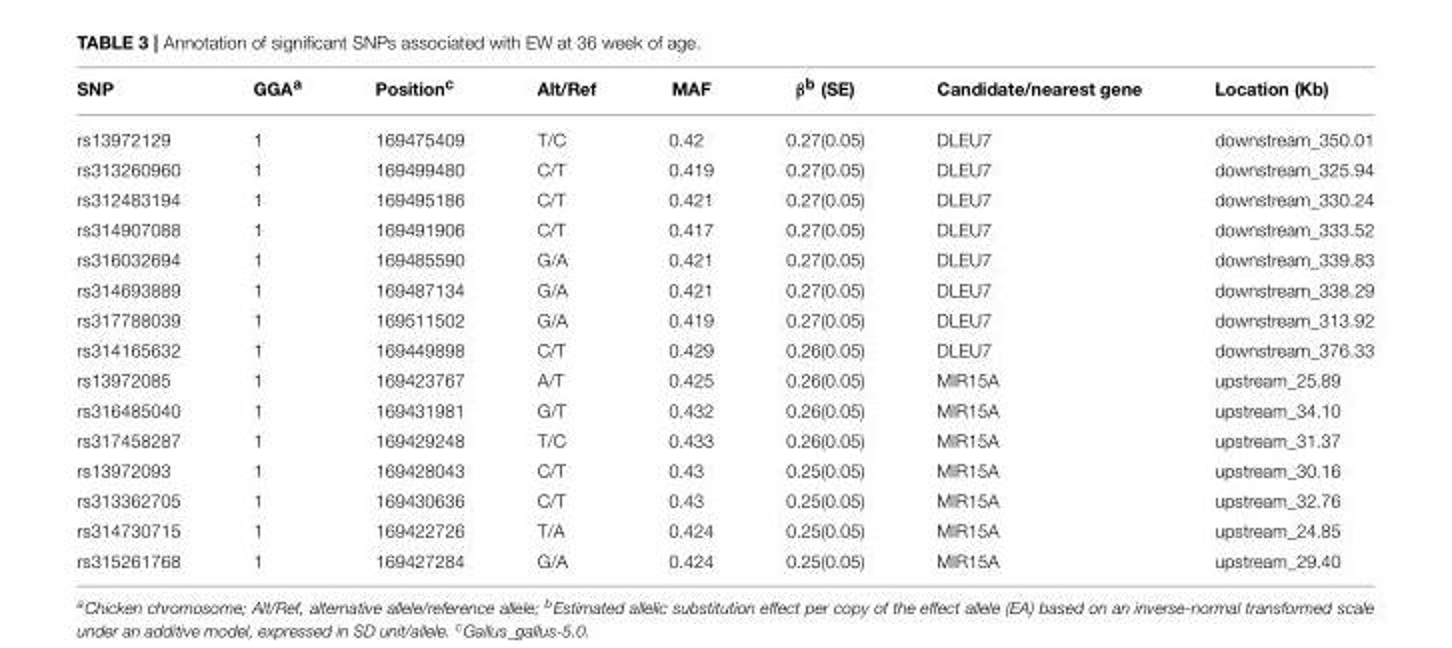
<table><thead><tr><td>SNP</td><td>GGA<sup>a</sup></td><td>Position<sup>c</sup></td><td>Alt/Ref</td><td>MAF</td><td>β<sup>b</sup> (SE)</td><td>Candidate/nearest gene</td><td>Location (Kb)</td></tr></thead><tbody><tr><td>rs13972129</td><td>1</td><td>169475409</td><td>T/C</td><td>0.42</td><td>0.27(0.05)</td><td>DLEU7</td><td>downstream_350.01</td></tr><tr><td>rs313260960</td><td>1</td><td>169499480</td><td>C/T</td><td>0.419</td><td>0.27(0.05)</td><td>DLEU7</td><td>downstream_325.94</td></tr><tr><td>rs312483194</td><td>1</td><td>169495186</td><td>C/T</td><td>0.421</td><td>0.27(0.05)</td><td>DLEU7</td><td>downstream_330.24</td></tr><tr><td>rs314907088</td><td>1</td><td>169491906</td><td>C/T</td><td>0.417</td><td>0.27(0.05)</td><td>DLEU7</td><td>downstream_333.52</td></tr><tr><td>rs316032694</td><td>1</td><td>169485590</td><td>G/A</td><td>0.421</td><td>0.27(0.05)</td><td>DLEU7</td><td>downstream_339.83</td></tr><tr><td>rs314693889</td><td>1</td><td>169487134</td><td>G/A</td><td>0.421</td><td>0.27(0.05)</td><td>DLEU7</td><td>downstream_338.29</td></tr><tr><td>rs317788039</td><td>1</td><td>169511502</td><td>G/A</td><td>0.419</td><td>0.27(0.05)</td><td>DLEU7</td><td>downstream_313.92</td></tr><tr><td>rs314165632</td><td>1</td><td>169449898</td><td>C/T</td><td>0.429</td><td>0.26(0.05)</td><td>DLEU7</td><td>downstream_376.33</td></tr><tr><td>rs13972085</td><td>1</td><td>169423767</td><td>A/T</td><td>0.425</td><td>0.26(0.05)</td><td>MIR15A</td><td>upstream_25.89</td></tr><tr><td>rs316485040</td><td>1</td><td>169431981</td><td>G/T</td><td>0.432</td><td>0.26(0.05)</td><td>MIR15A</td><td>upstream_34.10</td></tr><tr><td>rs317458287</td><td>1</td><td>169429248</td><td>T/C</td><td>0.433</td><td>0.26(0.05)</td><td>MIR15A</td><td>upstream_31.37</td></tr><tr><td>rs13972093</td><td>1</td><td>169428043</td><td>C/T</td><td>0.43</td><td>0.25(0.05)</td><td>MIR15A</td><td>upstream_30.16</td></tr><tr><td>rs313362705</td><td>1</td><td>169430636</td><td>C/T</td><td>0.43</td><td>0.25(0.05)</td><td>MIR15A</td><td>upstream_32.76</td></tr><tr><td>rs314730715</td><td>1</td><td>169422726</td><td>T/A</td><td>0.424</td><td>0.25(0.05)</td><td>MIR15A</td><td>upstream_24.85</td></tr><tr><td>rs315261768</td><td>1</td><td>169427284</td><td>G/A</td><td>0.424</td><td>0.25(0.05)</td><td>MIR15A</td><td>upstream_29.40</td></tr></tbody></table>